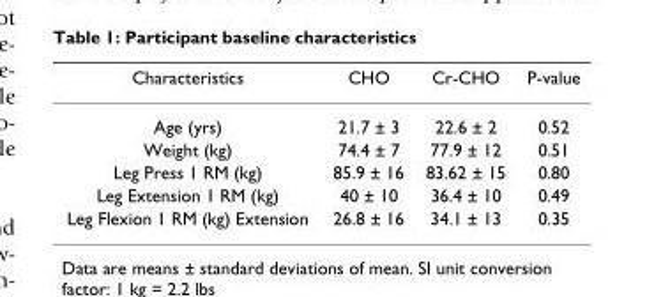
<table><thead><tr><td>Characteristics</td><td>CHO</td><td>Cr-CHO</td><td>P-value</td></tr></thead><tbody><tr><td>Age (yrs)</td><td>21.7 ± 3</td><td>22.6 ± 2</td><td>0.52</td></tr><tr><td>Weight (kg)</td><td>74.4 ± 7</td><td>77.9 ± 12</td><td>0.51</td></tr><tr><td>Leg Press 1 RM (kg)</td><td>85.9 ± 16</td><td>83.62 ± 15</td><td>0.80</td></tr><tr><td>Leg Extension 1 RM (kg)</td><td>40 ± 10</td><td>36.4 ± 10</td><td>0.49</td></tr><tr><td>Leg Flexion 1 RM (kg) Extension</td><td>26.8 ± 16</td><td>34.1 ± 13</td><td>0.35</td></tr></tbody></table>